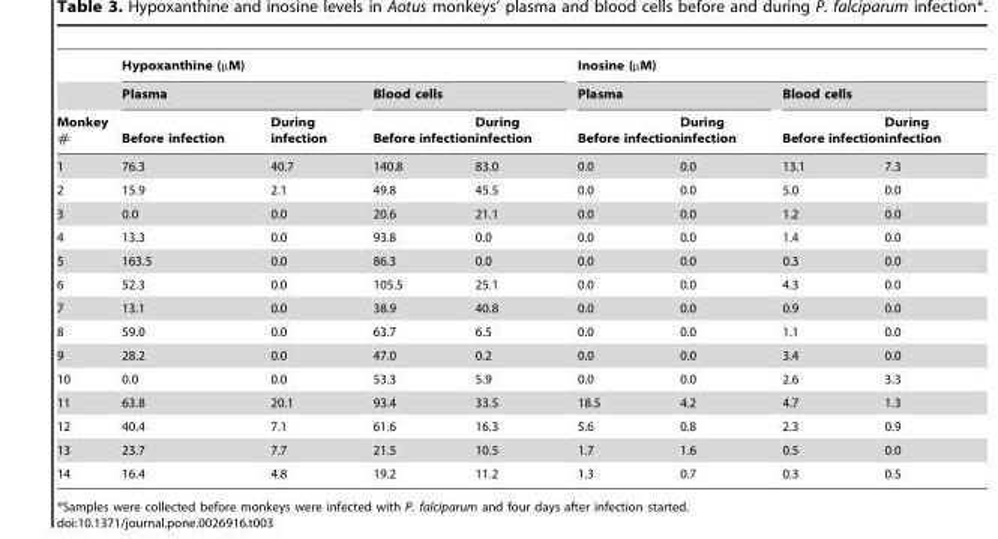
<table><thead><tr><td rowspan="3">Monkey #</td><td colspan="4">Hypoxanthine (µM)</td><td colspan="4">Inosine (µM)</td></tr><tr><td colspan="2">Plasma</td><td colspan="2">Blood cells</td><td colspan="2">Plasma</td><td colspan="2">Blood cells</td></tr><tr><td>Before infection</td><td>During infection</td><td>Before infection</td><td>During infection</td><td>Before infection</td><td>During infection</td><td>Before infection</td><td>During infection</td></tr></thead><tbody><tr><td>1</td><td>76.3</td><td>40.7</td><td>140.8</td><td>83.0</td><td>0.0</td><td>0.0</td><td>13.1</td><td>7.3</td></tr><tr><td>2</td><td>15.9</td><td>2.1</td><td>49.8</td><td>45.5</td><td>0.0</td><td>0.0</td><td>5.0</td><td>0.0</td></tr><tr><td>3</td><td>0.0</td><td>0.0</td><td>20.6</td><td>21.1</td><td>0.0</td><td>0.0</td><td>1.2</td><td>0.0</td></tr><tr><td>4</td><td>13.3</td><td>0.0</td><td>93.8</td><td>0.0</td><td>0.0</td><td>0.0</td><td>1.4</td><td>0.0</td></tr><tr><td>5</td><td>163.5</td><td>0.0</td><td>86.3</td><td>0.0</td><td>0.0</td><td>0.0</td><td>0.3</td><td>0.0</td></tr><tr><td>6</td><td>52.3</td><td>0.0</td><td>105.5</td><td>25.1</td><td>0.0</td><td>0.0</td><td>4.3</td><td>0.0</td></tr><tr><td>7</td><td>13.1</td><td>0.0</td><td>38.9</td><td>40.8</td><td>0.0</td><td>0.0</td><td>0.9</td><td>0.0</td></tr><tr><td>8</td><td>59.0</td><td>0.0</td><td>63.7</td><td>6.5</td><td>0.0</td><td>0.0</td><td>1.1</td><td>0.0</td></tr><tr><td>9</td><td>28.2</td><td>0.0</td><td>47.0</td><td>0.2</td><td>0.0</td><td>0.0</td><td>3.4</td><td>0.0</td></tr><tr><td>10</td><td>0.0</td><td>0.0</td><td>53.3</td><td>5.9</td><td>0.0</td><td>0.0</td><td>2.6</td><td>3.3</td></tr><tr><td>11</td><td>63.8</td><td>20.1</td><td>93.4</td><td>33.5</td><td>18.5</td><td>4.2</td><td>4.7</td><td>1.3</td></tr><tr><td>12</td><td>40.4</td><td>7.1</td><td>61.6</td><td>16.3</td><td>5.6</td><td>0.8</td><td>2.3</td><td>0.9</td></tr><tr><td>13</td><td>23.7</td><td>7.7</td><td>21.5</td><td>10.5</td><td>1.7</td><td>1.6</td><td>0.5</td><td>0.0</td></tr><tr><td>14</td><td>16.4</td><td>4.8</td><td>19.2</td><td>11.2</td><td>1.3</td><td>0.7</td><td>0.3</td><td>0.5</td></tr></tbody></table>